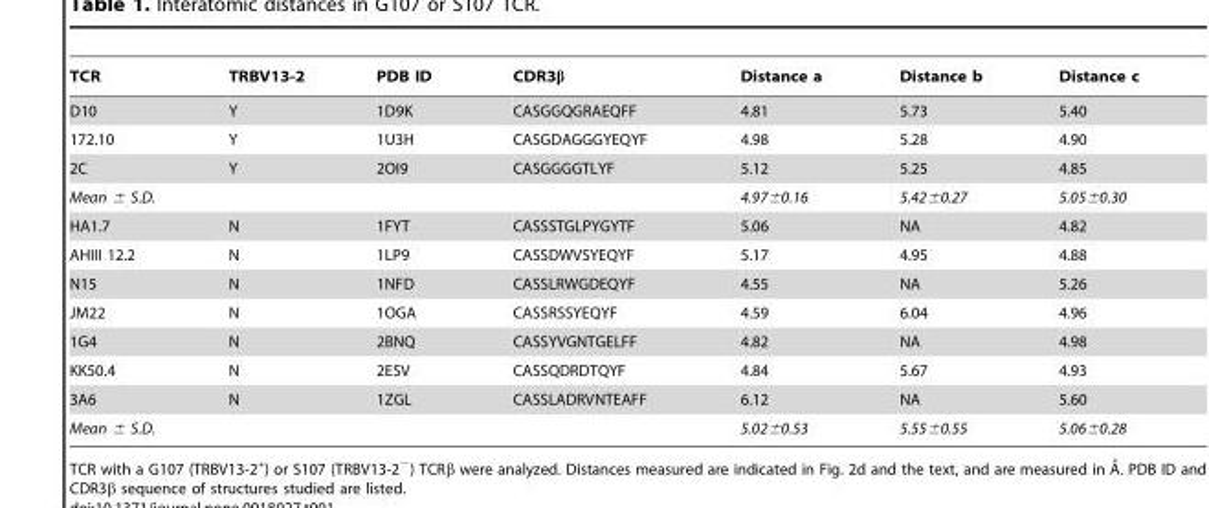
<table><thead><tr><td>TCR</td><td>TRBV13-2</td><td>PDB ID</td><td>CDR3β</td><td>Distance a</td><td>Distance b</td><td>Distance c</td></tr></thead><tbody><tr><td>D10</td><td>Y</td><td>1D9K</td><td>CASGGQGRAEQFF</td><td>4.81</td><td>5.73</td><td>5.40</td></tr><tr><td>172.10</td><td>Y</td><td>1U3H</td><td>CASGDAGGGYEQYF</td><td>4.98</td><td>5.28</td><td>4.90</td></tr><tr><td>2C</td><td>Y</td><td>2OI9</td><td>CASGGGGTLYF</td><td>5.12</td><td>5.25</td><td>4.85</td></tr><tr><td colspan="3">Mean ± S.D.</td><td></td><td>4.97±0.16</td><td>5.42±0.27</td><td>5.05±0.30</td></tr><tr><td>HA1.7</td><td>N</td><td>1FYT</td><td>CASSSTGLPYGYTF</td><td>5.06</td><td>NA</td><td>4.82</td></tr><tr><td>AHIII 12.2</td><td>N</td><td>1LP9</td><td>CASSDWVSYEQYF</td><td>5.17</td><td>4.95</td><td>4.88</td></tr><tr><td>N15</td><td>N</td><td>1NFD</td><td>CASSLRWGDEQYF</td><td>4.55</td><td>NA</td><td>5.26</td></tr><tr><td>JM22</td><td>N</td><td>1OGA</td><td>CASSRSSYEQYF</td><td>4.59</td><td>6.04</td><td>4.96</td></tr><tr><td>1G4</td><td>N</td><td>2BNQ</td><td>CASSYVGNTGELFF</td><td>4.82</td><td>NA</td><td>4.98</td></tr><tr><td>KK50.4</td><td>N</td><td>2ESV</td><td>CASSQDRDTQYF</td><td>4.84</td><td>5.67</td><td>4.93</td></tr><tr><td>3A6</td><td>N</td><td>1ZGL</td><td>CASSLADRVNTEAFF</td><td>6.12</td><td>NA</td><td>5.60</td></tr><tr><td colspan="3">Mean ± S.D.</td><td></td><td>5.02±0.53</td><td>5.55±0.55</td><td>5.06±0.28</td></tr></tbody></table>